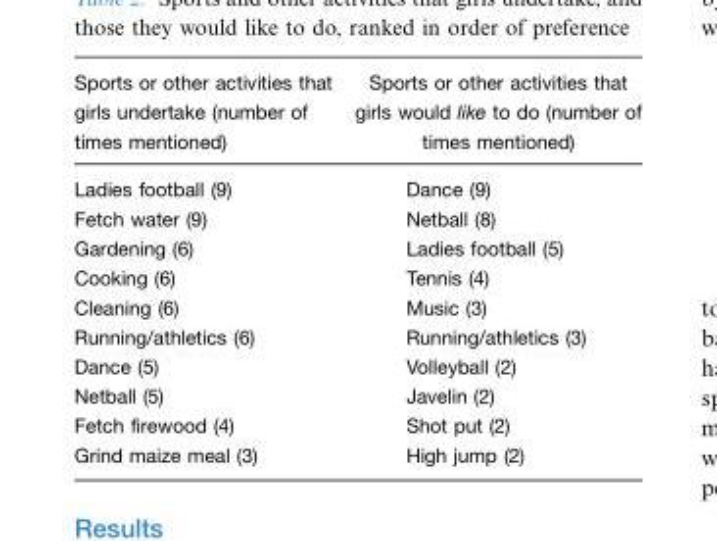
<table><thead><tr><td>Sports or other activities that girls undertake (number of times mentioned)</td><td>Sports or other activities that girls would like to do (number of times mentioned)</td></tr></thead><tbody><tr><td>Ladies football (9)</td><td>Dance (9)</td></tr><tr><td>Fetch water (9)</td><td>Netball (8)</td></tr><tr><td>Gardening (6)</td><td>Ladies football (5)</td></tr><tr><td>Cooking (6)</td><td>Tennis (4)</td></tr><tr><td>Cleaning (6)</td><td>Music (3)</td></tr><tr><td>Running/athletics (6)</td><td>Running/athletics (3)</td></tr><tr><td>Dance (5)</td><td>Volleyball (2)</td></tr><tr><td>Netball (5)</td><td>Javelin (2)</td></tr><tr><td>Fetch firewood (4)</td><td>Shot put (2)</td></tr><tr><td>Grind maize meal (3)</td><td>High jump (2)</td></tr></tbody></table>